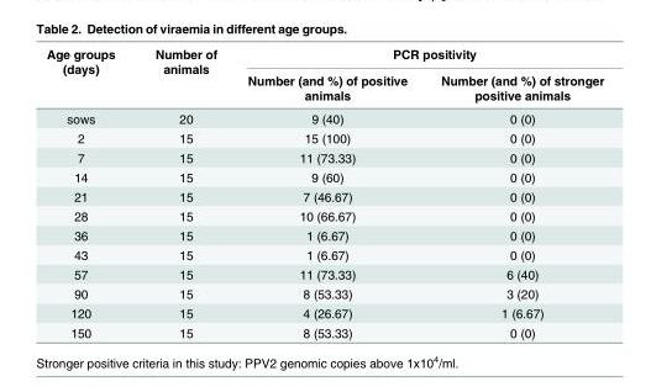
<table><thead><tr><td rowspan="2">Age groups (days)</td><td rowspan="2">Number of animals</td><td colspan="2">PCR positivity</td></tr><tr><td>Number (and %) of positive animals</td><td>Number (and %) of stronger positive animals</td></tr></thead><tbody><tr><td>sows</td><td>20</td><td>9 (40)</td><td>0 (0)</td></tr><tr><td>2</td><td>15</td><td>15 (100)</td><td>0 (0)</td></tr><tr><td>7</td><td>15</td><td>11 (73.33)</td><td>0 (0)</td></tr><tr><td>14</td><td>15</td><td>9 (60)</td><td>0 (0)</td></tr><tr><td>21</td><td>15</td><td>7 (46.67)</td><td>0 (0)</td></tr><tr><td>28</td><td>15</td><td>10 (66.67)</td><td>0 (0)</td></tr><tr><td>36</td><td>15</td><td>1 (6.67)</td><td>0 (0)</td></tr><tr><td>43</td><td>15</td><td>1 (6.67)</td><td>0 (0)</td></tr><tr><td>57</td><td>15</td><td>11 (73.33)</td><td>6 (40)</td></tr><tr><td>90</td><td>15</td><td>8 (53.33)</td><td>3 (20)</td></tr><tr><td>120</td><td>15</td><td>4 (26.67)</td><td>1 (6.67)</td></tr><tr><td>150</td><td>15</td><td>8 (53.33)</td><td>0 (0)</td></tr></tbody></table>